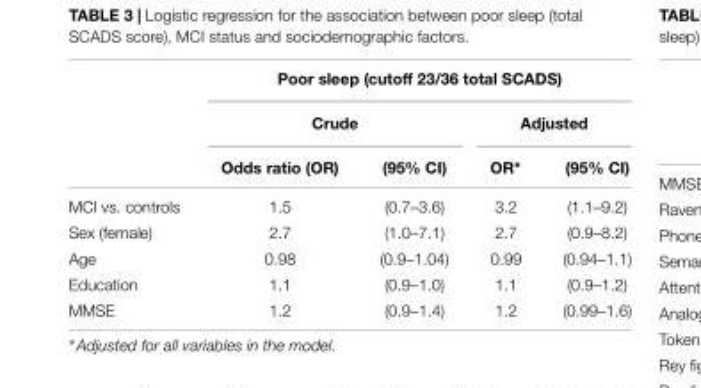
<table><thead><tr><td rowspan="3"></td><td colspan="4">Poor sleep (cutoff 23/36 total SCADS)</td></tr><tr><td colspan="2">Crude</td><td colspan="2">Adjusted</td></tr><tr><td>Odds ratio (OR)</td><td>(95% CI)</td><td>OR∗</td><td>(95% CI)</td></tr></thead><tbody><tr><td>MCI vs. controls</td><td>1.5</td><td>(0.7–3.6)</td><td>3.2</td><td>(1.1–9.2)</td></tr><tr><td>Sex (female)</td><td>2.7</td><td>(1.0–7.1)</td><td>2.7</td><td>(0.9–8.2)</td></tr><tr><td>Age</td><td>0.98</td><td>(0.9–1.04)</td><td>0.99</td><td>(0.94–1.1)</td></tr><tr><td>Education</td><td>1.1</td><td>(0.9–1.0)</td><td>1.1</td><td>(0.9–1.2)</td></tr><tr><td>MMSE</td><td>1.2</td><td>(0.9–1.4)</td><td>1.2</td><td>(0.99–1.6)</td></tr></tbody></table>